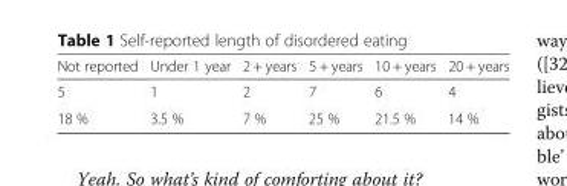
<table><thead><tr><td>Not reported</td><td>Under 1 year</td><td>2 + years</td><td>5 + years</td><td>10 + years</td><td>20 + years</td></tr></thead><tbody><tr><td>5</td><td>1</td><td>2</td><td>7</td><td>6</td><td>4</td></tr><tr><td>18 %</td><td>3.5 %</td><td>7 %</td><td>25 %</td><td>21.5 %</td><td>14 %</td></tr></tbody></table>